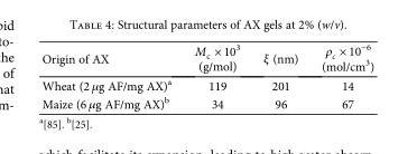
<table><thead><tr><td>Origin of AX</td><td>M<sub>c</sub> × 10<sup>3</sup> (g/mol)</td><td>ξ (nm)</td><td>ρ<sub>c</sub> × 10<sup>−6</sup> (mol/cm<sup>3</sup>)</td></tr></thead><tbody><tr><td>Wheat (2 μg AF/mg AX)<sup>a</sup></td><td>119</td><td>201</td><td>14</td></tr><tr><td>Maize (6 μg AF/mg AX)<sup>b</sup></td><td>34</td><td>96</td><td>67</td></tr></tbody></table>